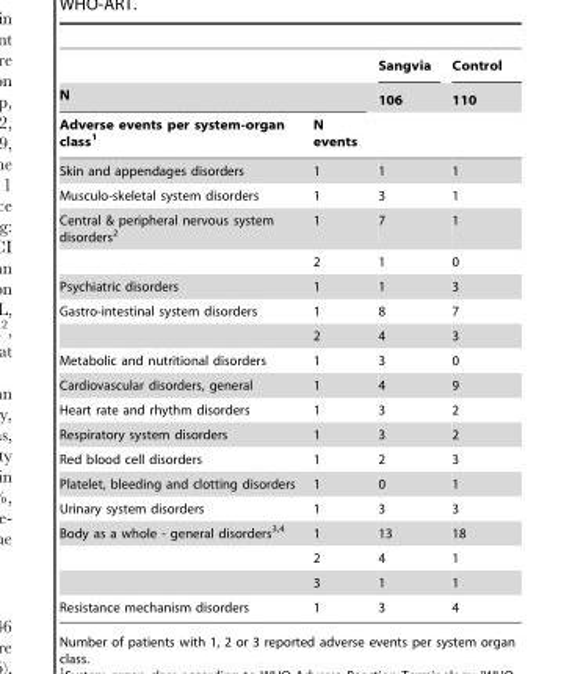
<table><thead><tr><td></td><td></td><td rowspan="3">Sangvia 106</td><td rowspan="3">Control 110</td></tr><tr><td colspan="2">N</td></tr><tr><td>Adverse events per system-organ class<sup>1</sup></td><td>N events</td></tr></thead><tbody><tr><td>Skin and appendages disorders</td><td>1</td><td>1</td><td>1</td></tr><tr><td>Musculo-skeletal system disorders</td><td>1</td><td>3</td><td>1</td></tr><tr><td rowspan="2">Central &amp; peripheral nervous system disorders<sup>2</sup></td><td>1</td><td>7</td><td>1</td></tr><tr><td>2</td><td>1</td><td>0</td></tr><tr><td>Psychiatric disorders</td><td>1</td><td>1</td><td>3</td></tr><tr><td rowspan="2">Gastro-intestinal system disorders</td><td>1</td><td>8</td><td>7</td></tr><tr><td>2</td><td>4</td><td>3</td></tr><tr><td>Metabolic and nutritional disorders</td><td>1</td><td>3</td><td>0</td></tr><tr><td>Cardiovascular disorders, general</td><td>1</td><td>4</td><td>9</td></tr><tr><td>Heart rate and rhythm disorders</td><td>1</td><td>3</td><td>2</td></tr><tr><td>Respiratory system disorders</td><td>1</td><td>3</td><td>2</td></tr><tr><td>Red blood cell disorders</td><td>1</td><td>2</td><td>3</td></tr><tr><td>Platelet, bleeding and clotting disorders</td><td>1</td><td>0</td><td>1</td></tr><tr><td>Urinary system disorders</td><td>1</td><td>3</td><td>3</td></tr><tr><td rowspan="3">Body as a whole - general disorders<sup>3,</sup>4</td><td>1</td><td>13</td><td>18</td></tr><tr><td>2</td><td>4</td><td>1</td></tr><tr><td>3</td><td>1</td><td>1</td></tr><tr><td>Resistance mechanism disorders</td><td>1</td><td>3</td><td>4</td></tr></tbody></table>